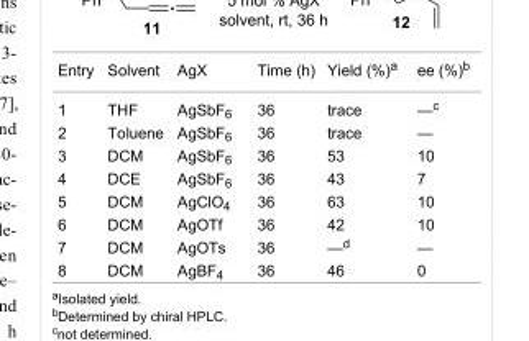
<table><tbody><tr><td>Entry</td><td>Solvent</td><td>AgX</td><td>Time (h)</td><td>Yield (%)<sup>a</sup></td><td>ee (%)<sup>b</sup></td></tr><tr><td>1</td><td>THF</td><td>AgSbF<sub>6</sub></td><td>36</td><td>trace</td><td>—<sup>c</sup></td></tr><tr><td>2</td><td>Toluene</td><td>AgSbF<sub>6</sub></td><td>36</td><td>trace</td><td>—</td></tr><tr><td>3</td><td>DCM</td><td>AgSbF<sub>6</sub></td><td>36</td><td>53</td><td>10</td></tr><tr><td>4</td><td>DCE</td><td>AgSbF<sub>6</sub></td><td>36</td><td>43</td><td>7</td></tr><tr><td>5</td><td>DCM</td><td>AgClO<sub>4</sub></td><td>36</td><td>63</td><td>10</td></tr><tr><td>6</td><td>DCM</td><td>AgOTf</td><td>36</td><td>42</td><td>10</td></tr><tr><td>7</td><td>DCM</td><td>AgOTs</td><td>36</td><td>—<sup>d</sup></td><td>—</td></tr><tr><td>8</td><td>DCM</td><td>AgBF<sub>4</sub></td><td>36</td><td>46</td><td>0</td></tr></tbody></table>